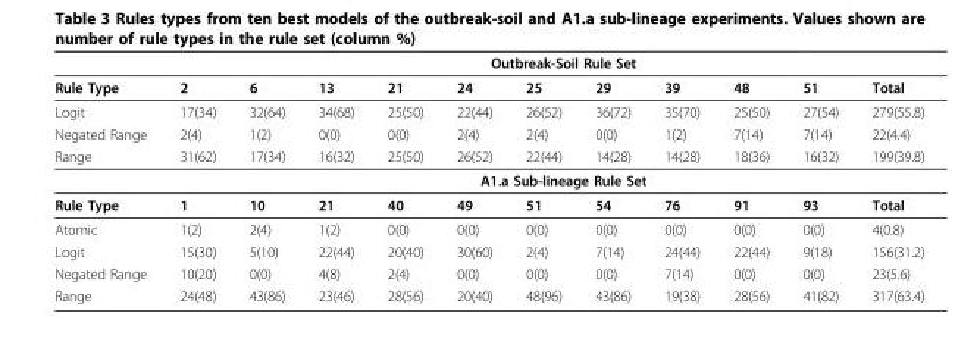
<table><thead><tr><td rowspan="2">Rule Type</td><td colspan="11">Outbreak-Soil Rule Set</td></tr><tr><td>2</td><td>6</td><td>13</td><td>21</td><td>24</td><td>25</td><td>29</td><td>39</td><td>48</td><td>51</td><td>Total</td></tr></thead><tbody><tr><td>Logit</td><td>17(34)</td><td>32(64)</td><td>34(68)</td><td>25(50)</td><td>22(44)</td><td>26(52)</td><td>36(72)</td><td>35(70)</td><td>25(50)</td><td>27(54)</td><td>279(55.8)</td></tr><tr><td>Negated Range</td><td>2(4)</td><td>1(2)</td><td>0(0)</td><td>0(0)</td><td>2(4)</td><td>2(4)</td><td>0(0)</td><td>1(2)</td><td>7(14)</td><td>7(14)</td><td>22(4.4)</td></tr><tr><td rowspan="2">Range</td><td>31(62)</td><td>17(34)</td><td>16(32)</td><td>25(50)</td><td>26(52)</td><td>22(44)</td><td>14(28)</td><td>14(28)</td><td>18(36)</td><td>16(32)</td><td>199(39.8)</td></tr><tr><td colspan="11">A1.a Sub-lineage Rule Set</td></tr><tr><td>Rule Type</td><td>1</td><td>10</td><td>21</td><td>40</td><td>49</td><td>51</td><td>54</td><td>76</td><td>91</td><td>93</td><td>Total</td></tr><tr><td>Atomic</td><td>1(2)</td><td>2(4)</td><td>1(2)</td><td>0(0)</td><td>0(0)</td><td>0(0)</td><td>0(0)</td><td>0(0)</td><td>0(0)</td><td>0(0)</td><td>4(0.8)</td></tr><tr><td>Logit</td><td>15(30)</td><td>5(10)</td><td>22(44)</td><td>20(40)</td><td>30(60)</td><td>2(4)</td><td>7(14)</td><td>24(44)</td><td>22(44)</td><td>9(18)</td><td>156(31.2)</td></tr><tr><td>Negated Range</td><td>10(20)</td><td>0(0)</td><td>4(8)</td><td>2(4)</td><td>0(0)</td><td>0(0)</td><td>0(0)</td><td>7(14)</td><td>0(0)</td><td>0(0)</td><td>23(5.6)</td></tr><tr><td>Range</td><td>24(48)</td><td>43(86)</td><td>23(46)</td><td>28(56)</td><td>20(40)</td><td>48(96)</td><td>43(86)</td><td>19(38)</td><td>28(56)</td><td>41(82)</td><td>317(63.4)</td></tr></tbody></table>